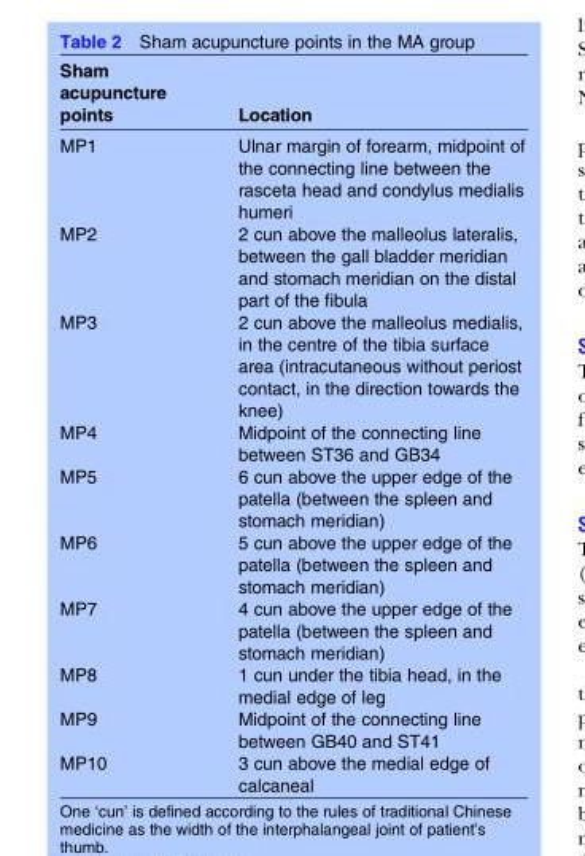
<table><thead><tr><td>Sham acupuncture points</td><td>Location</td></tr></thead><tbody><tr><td>MP1</td><td>Ulnar margin of forearm, midpoint of the connecting line between the rasceta head and condylus medialis humeri</td></tr><tr><td>MP2</td><td>2 cun above the malleolus lateralis, between the gall bladder meridian and stomach meridian on the distal part of the fibula</td></tr><tr><td>MP3</td><td>2 cun above the malleolus medialis, in the centre of the tibia surface area (intracutaneous without periost contact, in the direction towards the knee)</td></tr><tr><td>MP4</td><td>Midpoint of the connecting line between ST36 and GB34</td></tr><tr><td>MP5</td><td>6 cun above the upper edge of the patella (between the spleen and stomach meridian)</td></tr><tr><td>MP6</td><td>5 cun above the upper edge of the patella (between the spleen and stomach meridian)</td></tr><tr><td>MP7</td><td>4 cun above the upper edge of the patella (between the spleen and stomach meridian)</td></tr><tr><td>MP8</td><td>1 cun under the tibia head, in the medial edge of leg</td></tr><tr><td>MP9</td><td>Midpoint of the connecting line between GB40 and ST41</td></tr><tr><td>MP10</td><td>3 cun above the medial edge of calcaneal</td></tr></tbody></table>